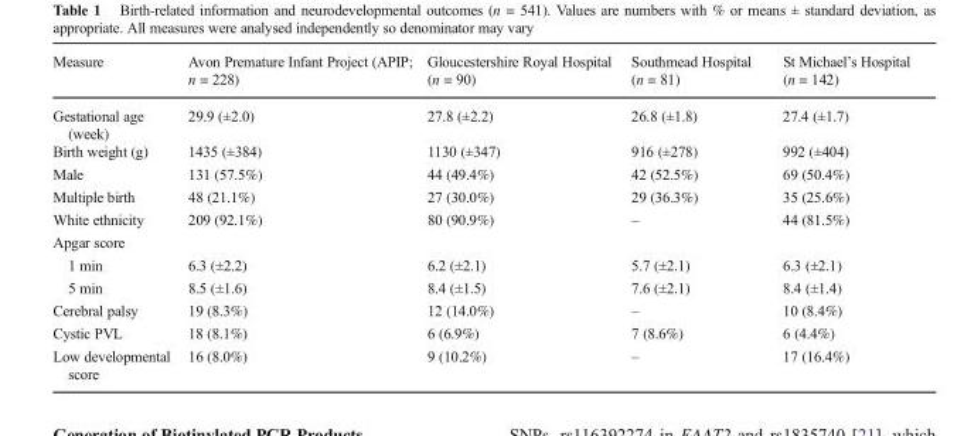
<table><thead><tr><td>Measure</td><td>Avon Premature Infant Project (APIP; n = 228)</td><td>Gloucestershire Royal Hospital (n = 90)</td><td>Southmead Hospital (n = 81)</td><td>St Michael’s Hospital (n = 142)</td></tr></thead><tbody><tr><td>Gestational age (week)</td><td>29.9 (±2.0)</td><td>27.8 (±2.2)</td><td>26.8 (±1.8)</td><td>27.4 (±1.7)</td></tr><tr><td>Birth weight (g)</td><td>1435 (±384)</td><td>1130 (±347)</td><td>916 (±278)</td><td>992 (±404)</td></tr><tr><td>Male</td><td>131 (57.5%)</td><td>44 (49.4%)</td><td>42 (52.5%)</td><td>69 (50.4%)</td></tr><tr><td>Multiple birth</td><td>48 (21.1%)</td><td>27 (30.0%)</td><td>29 (36.3%)</td><td>35 (25.6%)</td></tr><tr><td>White ethnicity</td><td>209 (92.1%)</td><td>80 (90.9%)</td><td>–</td><td>44 (81.5%)</td></tr><tr><td colspan="5">Apgar score</td></tr><tr><td>1 min</td><td>6.3 (±2.2)</td><td>6.2 (±2.1)</td><td>5.7 (±2.1)</td><td>6.3 (±2.1)</td></tr><tr><td>5 min</td><td>8.5 (±1.6)</td><td>8.4 (±1.5)</td><td>7.6 (±2.1)</td><td>8.4 (±1.4)</td></tr><tr><td>Cerebral palsy</td><td>19 (8.3%)</td><td>12 (14.0%)</td><td>–</td><td>10 (8.4%)</td></tr><tr><td>Cystic PVL</td><td>18 (8.1%)</td><td>6 (6.9%)</td><td>7 (8.6%)</td><td>6 (4.4%)</td></tr><tr><td>Low developmental score</td><td>16 (8.0%)</td><td>9 (10.2%)</td><td>–</td><td>17 (16.4%)</td></tr></tbody></table>